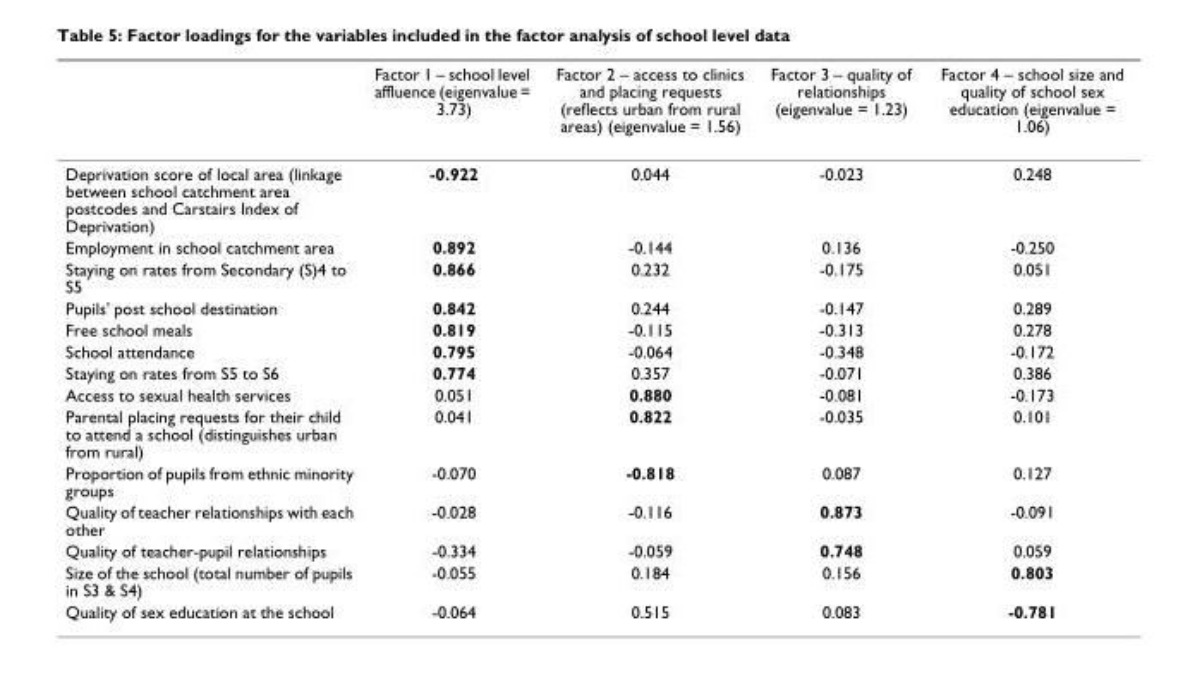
<table><thead><tr><td></td><td>Factor 1 – school level affluence (eigenvalue = 3.73)</td><td>Factor 2 – access to clinics and placing requests (reflects urban from rural areas) (eigenvalue = 1.56)</td><td>Factor 3 – quality of relationships (eigenvalue = 1.23)</td><td>Factor 4 – school size and quality of school sex education (eigenvalue = 1.06)</td></tr></thead><tbody><tr><td>Deprivation score of local area (linkage between school catchment area postcodes and Carstairs Index of Deprivation)</td><td>-0.922</td><td>0.044</td><td>-0.023</td><td>0.248</td></tr><tr><td>Employment in school catchment area</td><td>0.892</td><td>-0.144</td><td>0.136</td><td>-0.250</td></tr><tr><td>Staying on rates from Secondary (S)4 to S5</td><td>0.866</td><td>0.232</td><td>-0.175</td><td>0.051</td></tr><tr><td>Pupils&#x27; post school destination</td><td>0.842</td><td>0.244</td><td>-0.147</td><td>0.289</td></tr><tr><td>Free school meals</td><td>0.819</td><td>-0.115</td><td>-0.313</td><td>0.278</td></tr><tr><td>School attendance</td><td>0.795</td><td>-0.064</td><td>-0.348</td><td>-0.172</td></tr><tr><td>Staying on rates from S5 to S6</td><td>0.774</td><td>0.357</td><td>-0.071</td><td>0.386</td></tr><tr><td>Access to sexual health services</td><td>0.051</td><td>0.880</td><td>-0.081</td><td>-0.173</td></tr><tr><td>Parental placing requests for their child to attend a school (distinguishes urban from rural)</td><td>0.041</td><td>0.822</td><td>-0.035</td><td>0.101</td></tr><tr><td>Proportion of pupils from ethnic minority groups</td><td>-0.070</td><td>-0.818</td><td>0.087</td><td>0.127</td></tr><tr><td>Quality of teacher relationships with each other</td><td>-0.028</td><td>-0.116</td><td>0.873</td><td>-0.091</td></tr><tr><td>Quality of teacher-pupil relationships</td><td>-0.334</td><td>-0.059</td><td>0.748</td><td>0.059</td></tr><tr><td>Size of the school (total number of pupils in S3 &amp; S4)</td><td>-0.055</td><td>0.184</td><td>0.156</td><td>0.803</td></tr><tr><td>Quality of sex education at the school</td><td>-0.064</td><td>0.515</td><td>0.083</td><td>-0.781</td></tr></tbody></table>